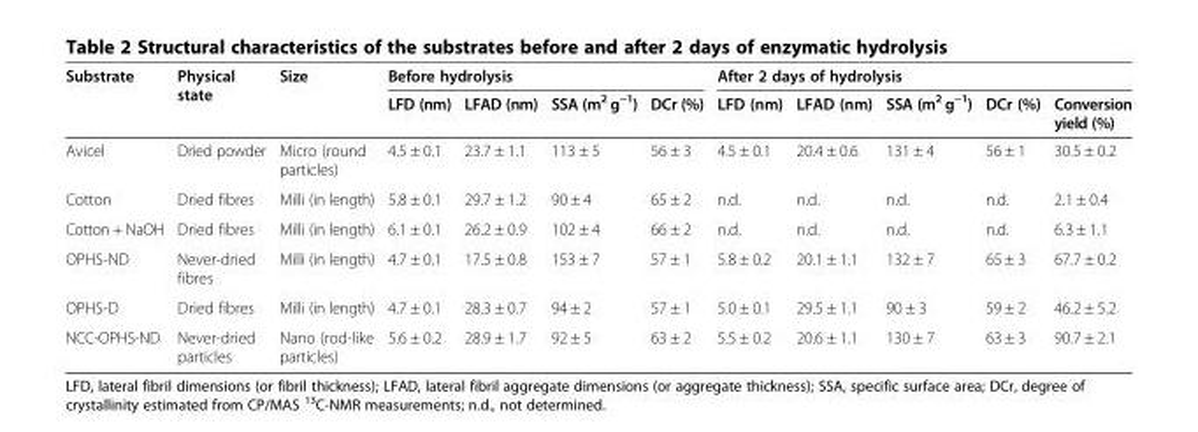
<table><thead><tr><td rowspan="2">Substrate</td><td rowspan="2">Physical state</td><td rowspan="2">Size</td><td colspan="4">Before hydrolysis</td><td colspan="5">After 2 days of hydrolysis</td></tr><tr><td>LFD (nm)</td><td>LFAD (nm)</td><td>SSA (m<sup>2</sup> g<sup>−1</sup>)</td><td>DCr (%)</td><td>LFD (nm)</td><td>LFAD (nm)</td><td>SSA (m<sup>2</sup> g<sup>−1</sup>)</td><td>DCr (%)</td><td>Conversion yield (%)</td></tr></thead><tbody><tr><td>Avicel</td><td>Dried powder</td><td>Micro (round particles)</td><td>4.5 ± 0.1</td><td>23.7 ± 1.1</td><td>113 ± 5</td><td>56 ± 3</td><td>4.5 ± 0.1</td><td>20.4 ± 0.6</td><td>131 ± 4</td><td>56 ± 1</td><td>30.5 ± 0.2</td></tr><tr><td>Cotton</td><td>Dried fibres</td><td>Milli (in length)</td><td>5.8 ± 0.1</td><td>29.7 ± 1.2</td><td>90 ± 4</td><td>65 ± 2</td><td>n.d.</td><td>n.d.</td><td>n.d.</td><td>n.d.</td><td>2.1 ± 0.4</td></tr><tr><td>Cotton + NaOH</td><td>Dried fibres</td><td>Milli (in length)</td><td>6.1 ± 0.1</td><td>26.2 ± 0.9</td><td>102 ± 4</td><td>66 ± 2</td><td>n.d.</td><td>n.d.</td><td>n.d.</td><td>n.d.</td><td>6.3 ± 1.1</td></tr><tr><td>OPHS-ND</td><td>Never-dried fibres</td><td>Milli (in length)</td><td>4.7 ± 0.1</td><td>17.5 ± 0.8</td><td>153 ± 7</td><td>57 ± 1</td><td>5.8 ± 0.2</td><td>20.1 ± 1.1</td><td>132 ± 7</td><td>65 ± 3</td><td>67.7 ± 0.2</td></tr><tr><td>OPHS-D</td><td>Dried fibres</td><td>Milli (in length)</td><td>4.7 ± 0.1</td><td>28.3 ± 0.7</td><td>94 ± 2</td><td>57 ± 1</td><td>5.0 ± 0.1</td><td>29.5 ± 1.1</td><td>90 ± 3</td><td>59 ± 2</td><td>46.2 ± 5.2</td></tr><tr><td>NCC-OPHS-ND</td><td>Never-dried particles</td><td>Nano (rod-like particles)</td><td>5.6 ± 0.2</td><td>28.9 ± 1.7</td><td>92 ± 5</td><td>63 ± 2</td><td>5.5 ± 0.2</td><td>20.6 ± 1.1</td><td>130 ± 7</td><td>63 ± 3</td><td>90.7 ± 2.1</td></tr></tbody></table>